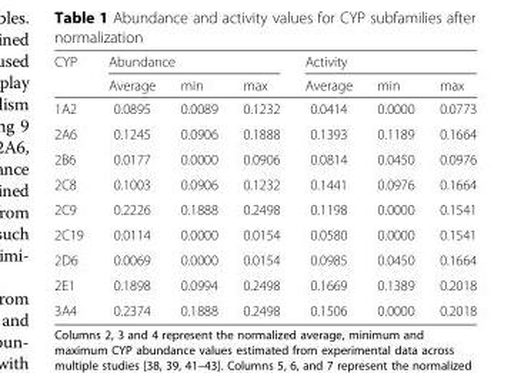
<table><thead><tr><td rowspan="2">CYP</td><td colspan="3">Abundance</td><td colspan="3">Activity</td></tr><tr><td>Average</td><td>min</td><td>max</td><td>Average</td><td>min</td><td>max</td></tr></thead><tbody><tr><td>1A2</td><td>0.0895</td><td>0.0089</td><td>0.1232</td><td>0.0414</td><td>0.0000</td><td>0.0773</td></tr><tr><td>2A6</td><td>0.1245</td><td>0.0906</td><td>0.1888</td><td>0.1393</td><td>0.1189</td><td>0.1664</td></tr><tr><td>2B6</td><td>0.0177</td><td>0.0000</td><td>0.0906</td><td>0.0814</td><td>0.0450</td><td>0.0976</td></tr><tr><td>2C8</td><td>0.1003</td><td>0.0906</td><td>0.1232</td><td>0.1441</td><td>0.0976</td><td>0.1664</td></tr><tr><td>2C9</td><td>0.2226</td><td>0.1888</td><td>0.2498</td><td>0.1198</td><td>0.0000</td><td>0.1541</td></tr><tr><td>2C19</td><td>0.0114</td><td>0.0000</td><td>0.0154</td><td>0.0580</td><td>0.0000</td><td>0.1541</td></tr><tr><td>2D6</td><td>0.0069</td><td>0.0000</td><td>0.0154</td><td>0.0985</td><td>0.0450</td><td>0.1664</td></tr><tr><td>2E1</td><td>0.1898</td><td>0.0994</td><td>0.2498</td><td>0.1669</td><td>0.1389</td><td>0.2018</td></tr><tr><td>3A4</td><td>0.2374</td><td>0.1888</td><td>0.2498</td><td>0.1506</td><td>0.0000</td><td>0.2018</td></tr></tbody></table>